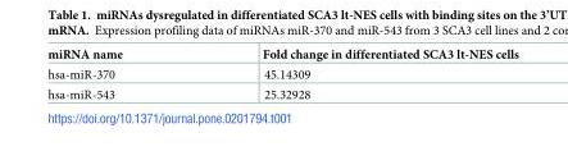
<table><thead><tr><td>miRNA name</td><td>Fold change in differentiated SCA3 lt-NES cells</td></tr></thead><tbody><tr><td>hsa-miR-370</td><td>45.14309</td></tr><tr><td>hsa-miR-543</td><td>25.32928</td></tr></tbody></table>